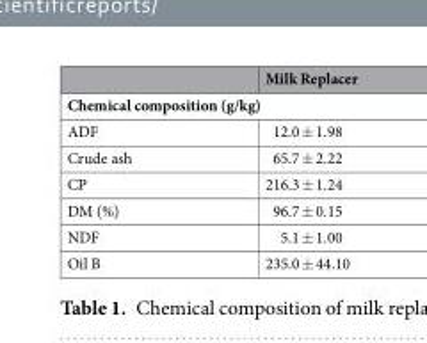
<table><thead><tr><td></td><td>Milk Replacer</td></tr></thead><tbody><tr><td colspan="2">Chemical composition (g/kg)</td></tr><tr><td>ADF</td><td>12.0 ± 1.98</td></tr><tr><td>Crude ash</td><td>65.7 ± 2.22</td></tr><tr><td>CP</td><td>216.3 ± 1.24</td></tr><tr><td>DM (%)</td><td>96.7 ± 0.15</td></tr><tr><td>NDF</td><td>5.1 ± 1.00</td></tr><tr><td>Oil B</td><td>235.0 ± 44.10</td></tr></tbody></table>